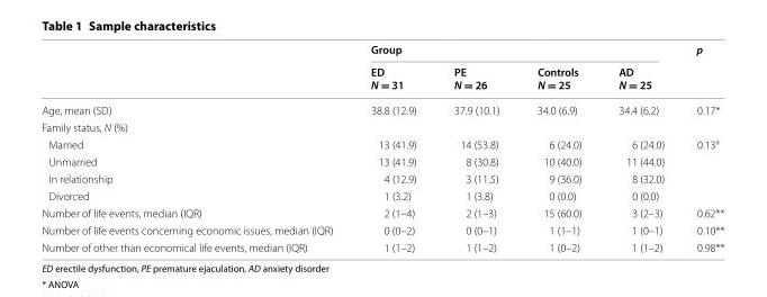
<table><thead><tr><td rowspan="2"></td><td colspan="4">Group</td><td rowspan="2">p</td></tr><tr><td>ED N = 31</td><td>PE N = 26</td><td>Controls N = 25</td><td>AD N = 25</td></tr></thead><tbody><tr><td>Age, mean (SD)</td><td>38.8 (12.9)</td><td>37.9 (10.1)</td><td>34.0 (6.9)</td><td>34.4 (6.2)</td><td>0.17*</td></tr><tr><td colspan="6">Family status, N (%)</td></tr><tr><td>Married</td><td>13 (41.9)</td><td>14 (53.8)</td><td>6 (24.0)</td><td>6 (24.0)</td><td>0.13<sup>a</sup></td></tr><tr><td>Unmarried</td><td>13 (41.9)</td><td>8 (30.8)</td><td>10 (40.0)</td><td>11 (44.0)</td><td></td></tr><tr><td>In relationship</td><td>4 (12.9)</td><td>3 (11.5)</td><td>9 (36.0)</td><td>8 (32.0)</td><td></td></tr><tr><td>Divorced</td><td>1 (3.2)</td><td>1 (3.8)</td><td>0 (0.0)</td><td>0 (0.0)</td><td></td></tr><tr><td>Number of life events, median (IQR)</td><td>2 (1–4)</td><td>2 (1–3)</td><td>15 (60.0)</td><td>3 (2–3)</td><td>0.62**</td></tr><tr><td>Number of life events concerning economic issues, median (IQR)</td><td>0 (0–2)</td><td>0 (0–1)</td><td>1 (1–1)</td><td>1 (0–1)</td><td>0.10**</td></tr><tr><td>Number of other than economical life events, median (IQR)</td><td>1 (1–2)</td><td>1 (1–2)</td><td>1 (0–2)</td><td>1 (1–2)</td><td>0.98**</td></tr></tbody></table>